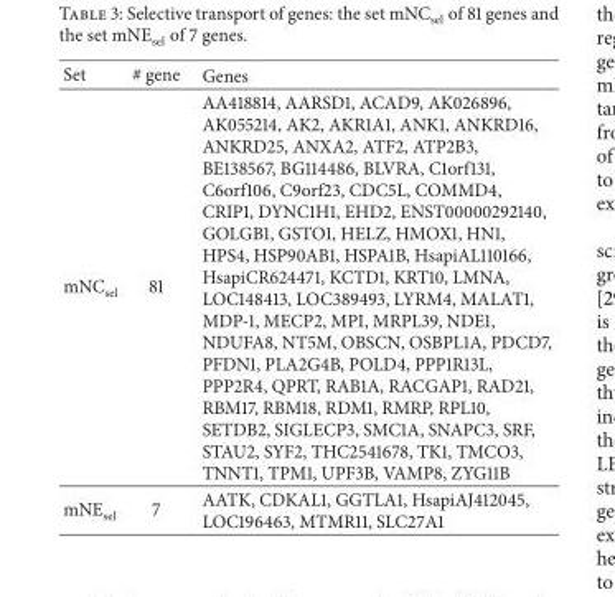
<table><thead><tr><td>Set</td><td># gene</td><td>Genes</td></tr></thead><tbody><tr><td>mNC<sub>sel</sub></td><td>81</td><td>AA418814, AARSD1, ACAD9, AK026896, AK055214, AK2, AKR1A1, ANK1, ANKRD16, ANKRD25, ANXA2, ATF2, ATP2B3, BE138567, BG114486, BLVRA, C1orf131, C6orf106, C9orf23, CDC5L, COMMD4, CRIP1, DYNC1H1, EHD2, ENST00000292140, GOLGB1, GSTO1, HELZ, HMOX1, HN1, HPS4, HSP90AB1, HSPA1B, HsapiAL110166, HsapiCR624471, KCTD1, KRT10, LMNA, LOC148413, LOC389493, LYRM4, MALAT1, MDP-1, MECP2, MPI, MRPL39, NDE1, NDUFA8, NT5M, OBSCN, OSBPL1A, PDCD7, PFDN1, PLA2G4B, POLD4, PPP1R13L, PPP2R4, QPRT, RAB1A, RACGAP1, RAD21, RBM17, RBM18, RDM1, RMRP, RPL10, SETDB2, SIGLECP3, SMC1A, SNAPC3, SRF, STAU2, SYF2, THC2541678, TK1, TMCO3, TNNT1, TPM1, UPF3B, VAMP8, ZYG11B</td></tr><tr><td>mNE<sub>sel</sub></td><td>7</td><td>AATK, CDKAL1, GGTLA1, HsapiAJ412045, LOC196463, MTMR11, SLC27A1</td></tr></tbody></table>